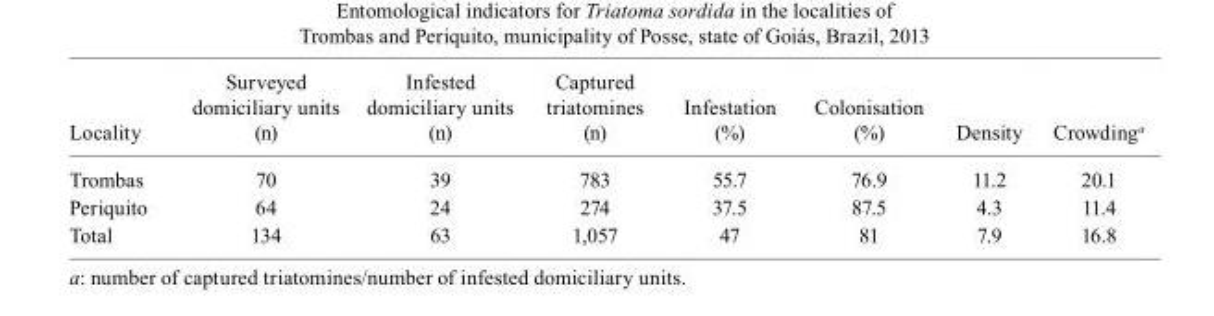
<table><thead><tr><td>Locality</td><td>Surveyed domiciliary units (n)</td><td>Infested domiciliary units (n)</td><td>Captured triatomines (n)</td><td>Infestation (%)</td><td>Colonisation (%)</td><td>Density</td><td>Crowding<sup>a</sup></td></tr></thead><tbody><tr><td>Trombas</td><td>70</td><td>39</td><td>783</td><td>55.7</td><td>76.9</td><td>11.2</td><td>20.1</td></tr><tr><td>Periquito</td><td>64</td><td>24</td><td>274</td><td>37.5</td><td>87.5</td><td>4.3</td><td>11.4</td></tr><tr><td>Total</td><td>134</td><td>63</td><td>1,057</td><td>47</td><td>81</td><td>7.9</td><td>16.8</td></tr></tbody></table>